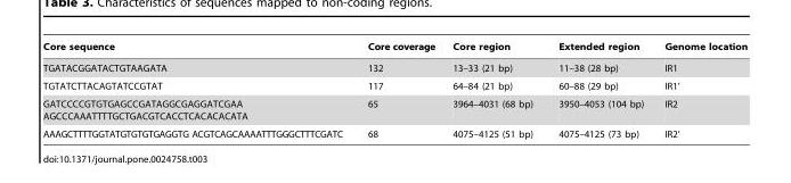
<table><thead><tr><td>Core sequence</td><td>Core coverage</td><td>Core region</td><td>Extended region</td><td>Genome location</td></tr></thead><tbody><tr><td>TGATACGGATACTGTAAGATA</td><td>132</td><td>13–33 (21 bp)</td><td>11–38 (28 bp)</td><td>IR1</td></tr><tr><td>TGTATCTTACAGTATCCGTAT</td><td>117</td><td>64–84 (21 bp)</td><td>60–88 (29 bp)</td><td>IR1’</td></tr><tr><td>GATCCCCGTGTGAGCCGATAGGCGAGGATCGAA AGCCCAAATTTTGCTGACGTCACCTCACACACATA</td><td>65</td><td>3964–4031 (68 bp)</td><td>3950–4053 (104 bp)</td><td>IR2</td></tr><tr><td>AAAGCTTTTGGTATGTGTGTGAGGTG ACGTCAGCAAAATTTGGGCTTTCGATC</td><td>68</td><td>4075–4125 (51 bp)</td><td>4075–4125 (73 bp)</td><td>IR2’</td></tr></tbody></table>